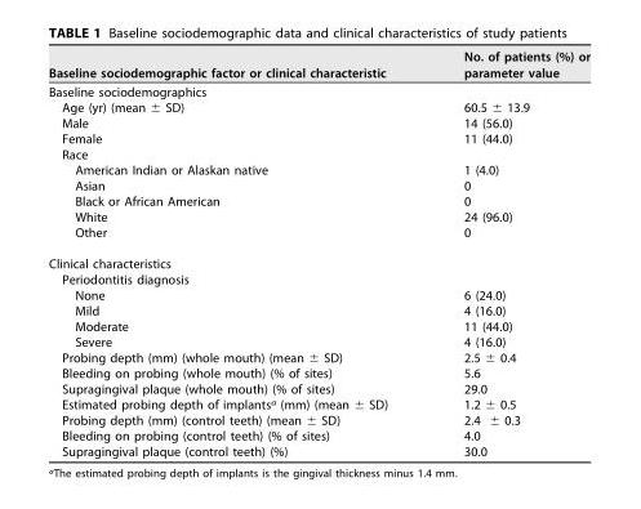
<table><thead><tr><td>Baseline sociodemographic factor or clinical characteristic</td><td>No. of patients (%) or parameter value</td></tr></thead><tbody><tr><td colspan="2">Baseline sociodemographics</td></tr><tr><td>Age (yr) (mean ± SD)</td><td>60.5 ± 13.9</td></tr><tr><td>Male</td><td>14 (56.0)</td></tr><tr><td>Female</td><td>11 (44.0)</td></tr><tr><td colspan="2">Race</td></tr><tr><td>American Indian or Alaskan native</td><td>1 (4.0)</td></tr><tr><td>Asian</td><td>0</td></tr><tr><td>Black or African American</td><td>0</td></tr><tr><td>White</td><td>24 (96.0)</td></tr><tr><td>Other</td><td>0</td></tr><tr><td colspan="2">Clinical characteristics</td></tr><tr><td colspan="2">Periodontitis diagnosis</td></tr><tr><td>None</td><td>6 (24.0)</td></tr><tr><td>Mild</td><td>4 (16.0)</td></tr><tr><td>Moderate</td><td>11 (44.0)</td></tr><tr><td>Severe</td><td>4 (16.0)</td></tr><tr><td>Probing depth (mm) (whole mouth) (mean ± SD)</td><td>2.5 ± 0.4</td></tr><tr><td>Bleeding on probing (whole mouth) (% of sites)</td><td>5.6</td></tr><tr><td>Supragingival plaque (whole mouth) (% of sites)</td><td>29.0</td></tr><tr><td>Estimated probing depth of implants<sup>a</sup> (mm) (mean ± SD)</td><td>1.2 ± 0.5</td></tr><tr><td>Probing depth (mm) (control teeth) (mean ± SD)</td><td>2.4 ± 0.3</td></tr><tr><td>Bleeding on probing (control teeth) (% of sites)</td><td>4.0</td></tr><tr><td>Supragingival plaque (control teeth) (%)</td><td>30.0</td></tr></tbody></table>